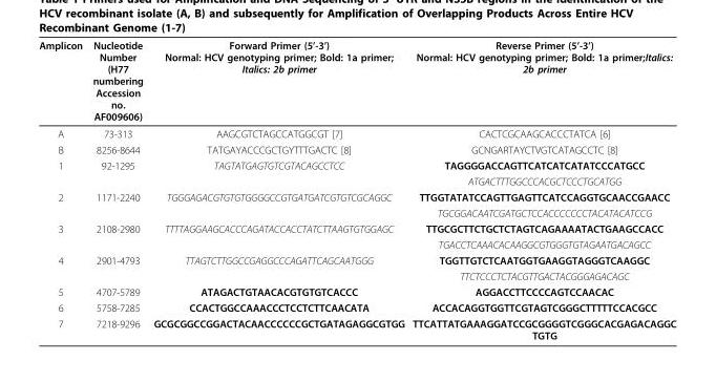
<table><thead><tr><td>Amplicon</td><td>Nucleotide Number (H77 numbering Accession no. AF009606)</td><td>Forward Primer (5’-3’) Normal: HCV genotyping primer; Bold: 1a primer; Italics: 2b primer</td><td>Reverse Primer (5’-3’) Normal: HCV genotyping primer; Bold: 1a primer;Italics: 2b primer</td></tr></thead><tbody><tr><td>A</td><td>73-313</td><td>AAGCGTCTAGCCATGGCGT [7]</td><td>CACTCGCAAGCACCCTATCA [6]</td></tr><tr><td>B</td><td>8256-8644</td><td>TATGAYACCCGCTGYTTTGACTC [8]</td><td>GCNGARTAYCTVGTCATAGCCTC [8]</td></tr><tr><td rowspan="2">1</td><td>92-1295</td><td>TAGTATGAGTGTCGTACAGCCTCC</td><td>TAGGGGACCAGTTCATCATCATATCCCATGCC</td></tr><tr><td></td><td></td><td>ATGACTTTGGCCCACGCTCCCTGCATGG</td></tr><tr><td rowspan="2">2</td><td>1171-2240</td><td>TGGGAGACGTGTGTGGGGCCGTGATGATCGTGTCGCAGGC</td><td>TTGGTATATCCAGTTGAGTTCATCCAGGTGCAACCGAACC</td></tr><tr><td></td><td></td><td>TGCGGACAATCGATGCTCCACCCCCCCTACATACATCCG</td></tr><tr><td rowspan="2">3</td><td>2108-2980</td><td>TTTTAGGAAGCACCCAGATACCACCTATCTTAAGTGTGGAGC</td><td>TTGCGCTTCTGCTCTAGTCAGAAAATACTGAAGCCACC</td></tr><tr><td></td><td></td><td>TGACCTCAAACACAAGGCGTGGGTGTAGAATGACAGCC</td></tr><tr><td rowspan="2">4</td><td>2901-4793</td><td>TTAGTCTTGGCCGAGGCCCAGATTCAGCAATGGG</td><td>TGGTTGTCTCAATGGTGAAGGTAGGGTCAAGGC</td></tr><tr><td></td><td></td><td>TTCTCCCTCTACGTTGACTACGGGAGACAGC</td></tr><tr><td>5</td><td>4707-5789</td><td>ATAGACTGTAACACGTGTGTCACCC</td><td>AGGACCTTCCCCAGTCCAACAC</td></tr><tr><td>6</td><td>5758-7285</td><td>CCACTGGCCAAACCCTCCTCTTCAACATA</td><td>ACCACAGGTGGTTCGTAGTCGGGCTTTTTCCACGCC</td></tr><tr><td>7</td><td>7218-9296</td><td>GCGCGGCCGGACTACAACCCCCCGCTGATAGAGGCGTGG</td><td>TTCATTATGAAAGGATCCGCGGGGTCGGGCACGAGACAGGC TGTG</td></tr></tbody></table>